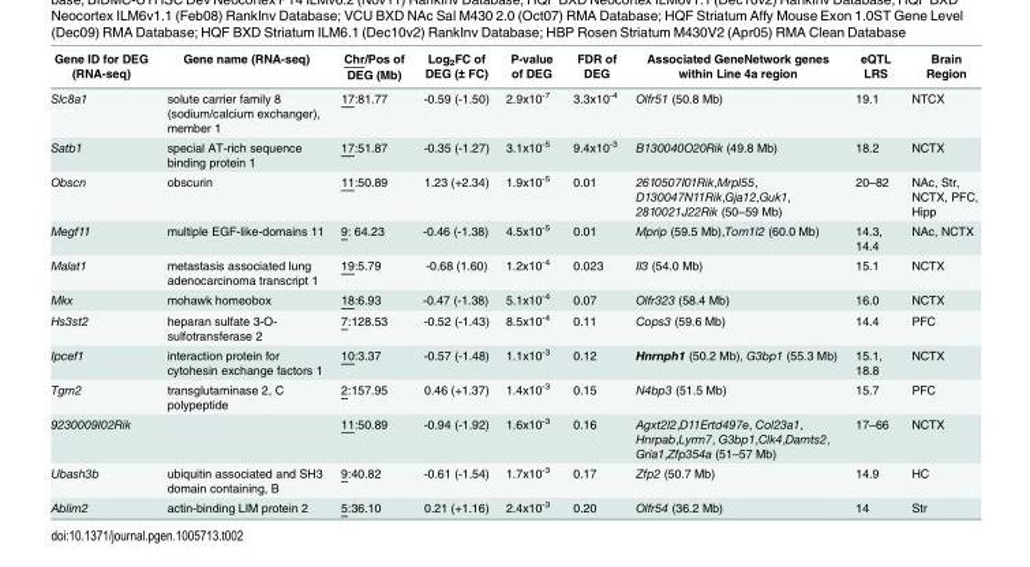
<table><thead><tr><td>Gene ID for DEG (RNA-seq)</td><td>Gene name (RNA-seq)</td><td>Chr/Pos of DEG (Mb)</td><td>Log<sub>2</sub>FC of DEG (± FC)</td><td>P-value of DEG</td><td>FDR of DEG</td><td>Associated GeneNetwork genes within Line 4a region</td><td>eQTL LRS</td><td>Brain Region</td></tr></thead><tbody><tr><td>Slc8a1</td><td>solute carrier family 8 (sodium/calcium exchanger), member 1</td><td>17:81.77</td><td>-0.59 (-1.50)</td><td>2.9x10<sup>-7</sup></td><td>3.3x10<sup>-4</sup></td><td>Olfr51 (50.8 Mb)</td><td>19.1</td><td>NTCX</td></tr><tr><td>Satb1</td><td>special AT-rich sequence binding protein 1</td><td>17:51.87</td><td>-0.35 (-1.27)</td><td>3.1x10<sup>-5</sup></td><td>9.4x10<sup>-3</sup></td><td>B130040O20Rik (49.8 Mb)</td><td>18.2</td><td>NCTX</td></tr><tr><td>Obscn</td><td>obscurin</td><td>11:50.89</td><td>1.23 (+2.34)</td><td>1.9x10<sup>-5</sup></td><td>0.01</td><td>2610507I01Rik,Mrpl55, D130047N11Rik,Gja12,Guk1, 2810021J22Rik (50–59 Mb)</td><td>20–82</td><td>NAc, Str, NCTX, PFC, Hipp</td></tr><tr><td>Megf11</td><td>multiple EGF-like-domains 11</td><td>9: 64.23</td><td>-0.46 (-1.38)</td><td>4.5x10<sup>-5</sup></td><td>0.01</td><td>Mprip (59.5 Mb),Tom1l2 (60.0 Mb)</td><td>14.3, 14.4</td><td>NAc, NCTX</td></tr><tr><td>Malat1</td><td>metastasis associated lung adenocarcinoma transcript 1</td><td>19:5.79</td><td>-0.68 (1.60)</td><td>1.2x10<sup>-4</sup></td><td>0.023</td><td>Il3 (54.0 Mb)</td><td>15.1</td><td>NCTX</td></tr><tr><td>Mkx</td><td>mohawk homeobox</td><td>18:6.93</td><td>-0.47 (-1.38)</td><td>5.1x10<sup>-4</sup></td><td>0.07</td><td>Olfr323 (58.4 Mb)</td><td>16.0</td><td>NCTX</td></tr><tr><td>Hs3st2</td><td>heparan sulfate 3-O- sulfotransferase 2</td><td>7:128.53</td><td>-0.52 (-1.43)</td><td>8.5x10<sup>-4</sup></td><td>0.11</td><td>Cops3 (59.6 Mb)</td><td>14.4</td><td>PFC</td></tr><tr><td>Ipcef1</td><td>interaction protein for cytohesin exchange factors 1</td><td>10:3.37</td><td>-0.57 (-1.48)</td><td>1.1x10<sup>-3</sup></td><td>0.12</td><td>Hnrnph1 (50.2 Mb), G3bp1 (55.3 Mb)</td><td>15.1, 18.8</td><td>NCTX</td></tr><tr><td>Tgm2</td><td>transglutaminase 2, C polypeptide</td><td>2:157.95</td><td>0.46 (+1.37)</td><td>1.4x10<sup>-3</sup></td><td>0.15</td><td>N4bp3 (51.5 Mb)</td><td>15.7</td><td>PFC</td></tr><tr><td>9230009I02Rik</td><td></td><td>11:50.89</td><td>-0.94 (-1.92)</td><td>1.6x10<sup>-3</sup></td><td>0.16</td><td>Agxt2l2,D11Ertd497e, Col23a1, Hnrpab,Lyrm7, G3bp1,Clk4,Damts2, Gria1,Zfp354a (51–57 Mb)</td><td>17–66</td><td>NCTX</td></tr><tr><td>Ubash3b</td><td>ubiquitin associated and SH3 domain containing, B</td><td>9:40.82</td><td>-0.61 (-1.54)</td><td>1.7x10<sup>-3</sup></td><td>0.17</td><td>Zfp2 (50.7 Mb)</td><td>14.9</td><td>HC</td></tr><tr><td>Ablim2</td><td>actin-binding LIM protein 2</td><td>5:36.10</td><td>0.21 (+1.16)</td><td>2.4x10<sup>-3</sup></td><td>0.20</td><td>Olfr54 (36.2 Mb)</td><td>14</td><td>Str</td></tr></tbody></table>